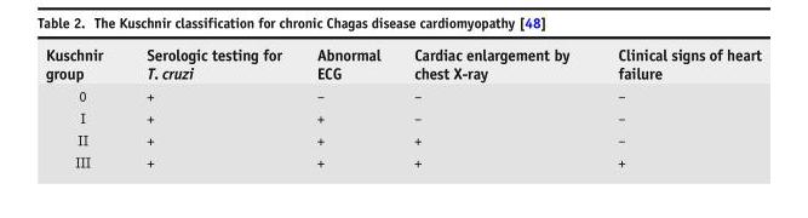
<table><thead><tr><td>Kuschnir group</td><td>Serologic testing for T. cruzi</td><td>Abnormal ECG</td><td>Cardiac enlargement by chest X-ray</td><td>Clinical signs of heart failure</td></tr></thead><tbody><tr><td>0</td><td>+</td><td>–</td><td>–</td><td>–</td></tr><tr><td>I</td><td>+</td><td>+</td><td>–</td><td>–</td></tr><tr><td>II</td><td>+</td><td>+</td><td>+</td><td>–</td></tr><tr><td>III</td><td>+</td><td>+</td><td>+</td><td>+</td></tr></tbody></table>